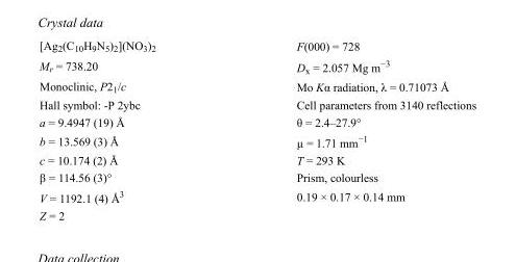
<table><tbody><tr><td>[Ag<sub>2</sub>(C<sub>10</sub>H<sub>9</sub>N<sub>5</sub>)<sub>2</sub>](NO<sub>3</sub>)<sub>2</sub></td><td>F(000) = 728</td></tr><tr><td>M<sub>r</sub> = 738.20</td><td>D<sub>x</sub> = 2.057 Mg m<sup>−3</sup></td></tr><tr><td>Monoclinic, P2<sub>1</sub>/c</td><td>Mo Kα radiation, λ = 0.71073 Å</td></tr><tr><td>Hall symbol: -P 2ybc</td><td>Cell parameters from 3140 reflections</td></tr><tr><td>a = 9.4947 (19) Å</td><td>θ = 2.4–27.9°</td></tr><tr><td>b = 13.569 (3) Å</td><td>µ = 1.71 mm<sup>−1</sup></td></tr><tr><td>c = 10.174 (2) Å</td><td>T = 293 K</td></tr><tr><td>β = 114.56 (3)°</td><td>Prism, colourless</td></tr><tr><td>V = 1192.1 (4) Å<sup>3</sup></td><td>0.19 × 0.17 × 0.14 mm</td></tr><tr><td>Z = 2</td><td></td></tr></tbody></table>